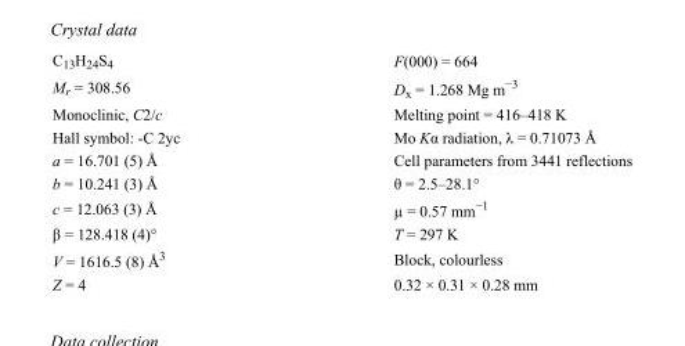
<table><tbody><tr><td>C<sub>13</sub>H<sub>24</sub>S<sub>4</sub></td><td>F(000) = 664</td></tr><tr><td>M<sub>r</sub> = 308.56</td><td>D<sub>x</sub> = 1.268 Mg m<sup>−3</sup></td></tr><tr><td>Monoclinic, C2/c</td><td>Melting point = 416–418 K</td></tr><tr><td>Hall symbol: -C 2yc</td><td>Mo Kα radiation, λ = 0.71073 Å</td></tr><tr><td>a = 16.701 (5) Å</td><td>Cell parameters from 3441 reflections</td></tr><tr><td>b = 10.241 (3) Å</td><td>θ = 2.5–28.1°</td></tr><tr><td>c = 12.063 (3) Å</td><td>µ = 0.57 mm<sup>−1</sup></td></tr><tr><td>β = 128.418 (4)°</td><td>T = 297 K</td></tr><tr><td>V = 1616.5 (8) Å<sup>3</sup></td><td>Block, colourless</td></tr><tr><td>Z = 4</td><td>0.32 × 0.31 × 0.28 mm</td></tr></tbody></table>